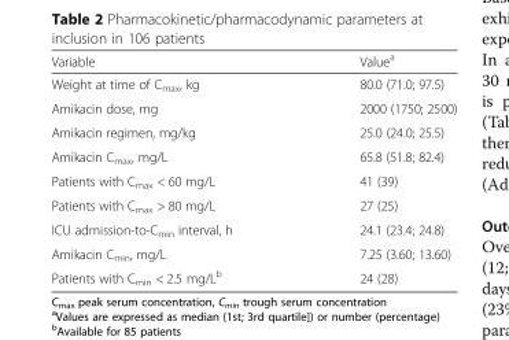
<table><thead><tr><td>Variable</td><td>Value<sup>a</sup></td></tr></thead><tbody><tr><td>Weight at time of C<sub>max</sub>, kg</td><td>80.0 (71.0; 97.5)</td></tr><tr><td>Amikacin dose, mg</td><td>2000 (1750; 2500)</td></tr><tr><td>Amikacin regimen, mg/kg</td><td>25.0 (24.0; 25.5)</td></tr><tr><td>Amikacin C<sub>max</sub>, mg/L</td><td>65.8 (51.8; 82.4)</td></tr><tr><td>Patients with C<sub>max</sub> &lt; 60 mg/L</td><td>41 (39)</td></tr><tr><td>Patients with C<sub>max</sub> &gt; 80 mg/L</td><td>27 (25)</td></tr><tr><td>ICU admission-to-C<sub>min</sub> interval, h</td><td>24.1 (23.4; 24.8)</td></tr><tr><td>Amikacin C<sub>min</sub>, mg/L</td><td>7.25 (3.60; 13.60)</td></tr><tr><td>Patients with C<sub>min</sub> &lt; 2.5 mg/L<sup>b</sup></td><td>24 (28)</td></tr></tbody></table>